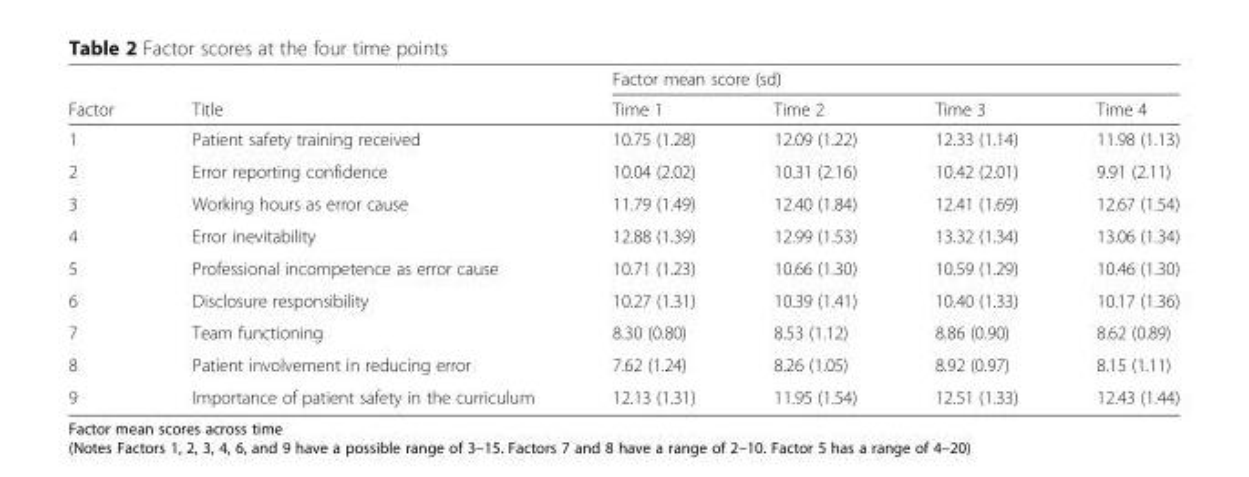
<table><thead><tr><td rowspan="2">Factor</td><td rowspan="2">Title</td><td colspan="4">Factor mean score (sd)</td></tr><tr><td>Time 1</td><td>Time 2</td><td>Time 3</td><td>Time 4</td></tr></thead><tbody><tr><td>1</td><td>Patient safety training received</td><td>10.75 (1.28)</td><td>12.09 (1.22)</td><td>12.33 (1.14)</td><td>11.98 (1.13)</td></tr><tr><td>2</td><td>Error reporting confidence</td><td>10.04 (2.02)</td><td>10.31 (2.16)</td><td>10.42 (2.01)</td><td>9.91 (2.11)</td></tr><tr><td>3</td><td>Working hours as error cause</td><td>11.79 (1.49)</td><td>12.40 (1.84)</td><td>12.41 (1.69)</td><td>12.67 (1.54)</td></tr><tr><td>4</td><td>Error inevitability</td><td>12.88 (1.39)</td><td>12.99 (1.53)</td><td>13.32 (1.34)</td><td>13.06 (1.34)</td></tr><tr><td>5</td><td>Professional incompetence as error cause</td><td>10.71 (1.23)</td><td>10.66 (1.30)</td><td>10.59 (1.29)</td><td>10.46 (1.30)</td></tr><tr><td>6</td><td>Disclosure responsibility</td><td>10.27 (1.31)</td><td>10.39 (1.41)</td><td>10.40 (1.33)</td><td>10.17 (1.36)</td></tr><tr><td>7</td><td>Team functioning</td><td>8.30 (0.80)</td><td>8.53 (1.12)</td><td>8.86 (0.90)</td><td>8.62 (0.89)</td></tr><tr><td>8</td><td>Patient involvement in reducing error</td><td>7.62 (1.24)</td><td>8.26 (1.05)</td><td>8.92 (0.97)</td><td>8.15 (1.11)</td></tr><tr><td>9</td><td>Importance of patient safety in the curriculum</td><td>12.13 (1.31)</td><td>11.95 (1.54)</td><td>12.51 (1.33)</td><td>12.43 (1.44)</td></tr></tbody></table>